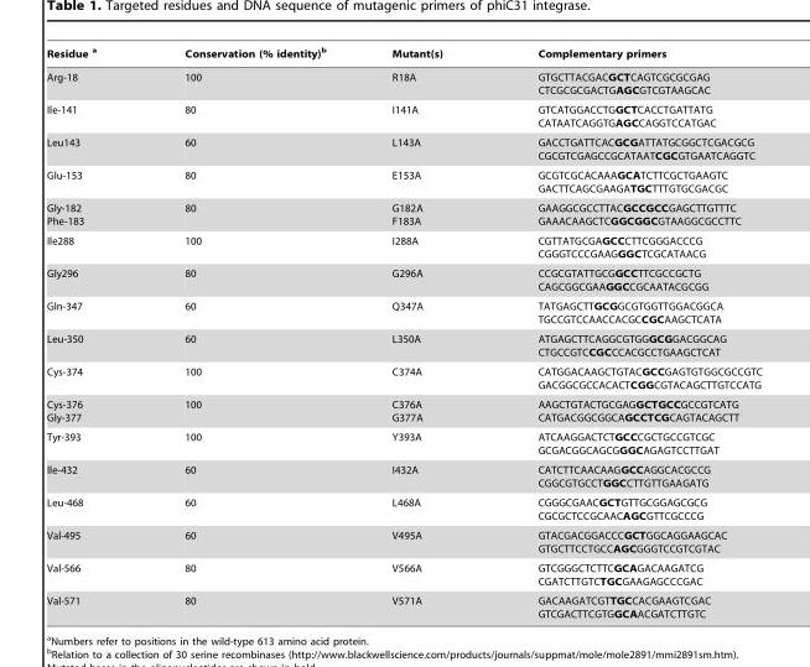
<table><thead><tr><td>Residue a</td><td>Conservation (% identity)<sup>b</sup></td><td>Mutant(s)</td><td>Complementary primers</td></tr></thead><tbody><tr><td>Arg-18</td><td>100</td><td>R18A</td><td>GTGCTTACGACGCTCAGTCGCGCGAG CTCGCGCGACTGAGCGTCGTAAGCAC</td></tr><tr><td>Ile-141</td><td>80</td><td>I141A</td><td>GTCATGGACCTGGCTCACCTGATTATG CATAATCAGGTGAGCCAGGTCCATGAC</td></tr><tr><td>Leu143</td><td>60</td><td>L143A</td><td>GACCTGATTCACGCGATTATGCGGCTCGACGCG CGCGTCGAGCCGCATAATCGCGTGAATCAGGTC</td></tr><tr><td>Glu-153</td><td>80</td><td>E153A</td><td>GCGTCGCACAAAGCATCTTCGCTGAAGTC GACTTCAGCGAAGATGCTTTGTGCGACGC</td></tr><tr><td>Gly-182 Phe-183</td><td>80</td><td>G182A F183A</td><td>GAAGGCGCCTTACGCCGCCGAGCTTGTTTC GAAACAAGCTCGGCGGCGTAAGGCGCCTTC</td></tr><tr><td>Ile288</td><td>100</td><td>I288A</td><td>CGTTATGCGAGCCCTTCGGGACCCG CGGGTCCCGAAGGGCTCGCATAACG</td></tr><tr><td>Gly296</td><td>80</td><td>G296A</td><td>CCGCGTATTGCGGCCTTCGCCGCTG CAGCGGCGAAGGCCGCAATACGCGG</td></tr><tr><td>Gln-347</td><td>60</td><td>Q347A</td><td>TATGAGCTTGCGGCGTGGTTGGACGGCA TGCCGTCCAACCACGCCGCAAGCTCATA</td></tr><tr><td>Leu-350</td><td>60</td><td>L350A</td><td>ATGAGCTTCAGGCGTGGGCGGACGGCAG CTGCCGTCCGCCCACGCCTGAAGCTCAT</td></tr><tr><td>Cys-374</td><td>100</td><td>C374A</td><td>CATGGACAAGCTGTACGCCGAGTGTGGCGCCGTC GACGGCGCCACACTCGGCGTACAGCTTGTCCATG</td></tr><tr><td>Cys-376 Gly-377</td><td>100</td><td>C376A G377A</td><td>AAGCTGTACTGCGAGGCTGCCGCCGTCATG CATGACGGCGGCAGCCTCGCAGTACAGCTT</td></tr><tr><td>Tyr-393</td><td>100</td><td>Y393A</td><td>ATCAAGGACTCTGCCCGCTGCCGTCGC GCGACGGCAGCGGGCAGAGTCCTTGAT</td></tr><tr><td>Ile-432</td><td>60</td><td>I432A</td><td>CATCTTCAACAAGGCCAGGCACGCCG CGGCGTGCCTGGCCTTGTTGAAGATG</td></tr><tr><td>Leu-468</td><td>60</td><td>L468A</td><td>CGGGCGAACGCTGTTGCGGAGCGCG CGCGCTCCGCAACAGCGTTCGCCCG</td></tr><tr><td>Val-495</td><td>60</td><td>V495A</td><td>GTACGACGGACCCGCTGGCAGGAAGCAC GTGCTTCCTGCCAGCGGGTCCGTCGTAC</td></tr><tr><td>Val-566</td><td>80</td><td>V566A</td><td>GTCGGGCTCTTCGCAGACAAGATCG CGATCTTGTCTGCGAAGAGCCCGAC</td></tr><tr><td>Val-571</td><td>80</td><td>V571A</td><td>GACAAGATCGTTGCCACGAAGTCGAC GTCGACTTCGTGGCAACGATCTTGTC</td></tr></tbody></table>